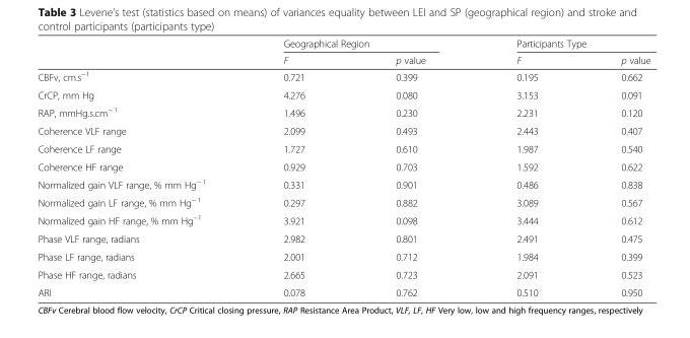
<table><thead><tr><td rowspan="2"></td><td colspan="2">Geographical Region</td><td colspan="2">Participants Type</td></tr><tr><td>F</td><td>p value</td><td>F</td><td>p value</td></tr></thead><tbody><tr><td>CBFv, cm.s<sup>−1</sup></td><td>0.721</td><td>0.399</td><td>0.195</td><td>0.662</td></tr><tr><td>CrCP, mm Hg</td><td>4.276</td><td>0.080</td><td>3.153</td><td>0.091</td></tr><tr><td>RAP, mmHg.s.cm<sup>− 1</sup></td><td>1.496</td><td>0.230</td><td>2.231</td><td>0.120</td></tr><tr><td>Coherence VLF range</td><td>2.099</td><td>0.493</td><td>2.443</td><td>0.407</td></tr><tr><td>Coherence LF range</td><td>1.727</td><td>0.610</td><td>1.987</td><td>0.540</td></tr><tr><td>Coherence HF range</td><td>0.929</td><td>0.703</td><td>1.592</td><td>0.622</td></tr><tr><td>Normalized gain VLF range, % mm Hg<sup>− 1</sup></td><td>0.331</td><td>0.901</td><td>0.486</td><td>0.838</td></tr><tr><td>Normalized gain LF range, % mm Hg<sup>− 1</sup></td><td>0.297</td><td>0.882</td><td>3.089</td><td>0.567</td></tr><tr><td>Normalized gain HF range, % mm Hg<sup>−1</sup></td><td>3.921</td><td>0.098</td><td>3.444</td><td>0.612</td></tr><tr><td>Phase VLF range, radians</td><td>2.982</td><td>0.801</td><td>2.491</td><td>0.475</td></tr><tr><td>Phase LF range, radians</td><td>2.001</td><td>0.712</td><td>1.984</td><td>0.399</td></tr><tr><td>Phase HF range, radians</td><td>2.665</td><td>0.723</td><td>2.091</td><td>0.523</td></tr><tr><td>ARI</td><td>0.078</td><td>0.762</td><td>0.510</td><td>0.950</td></tr></tbody></table>